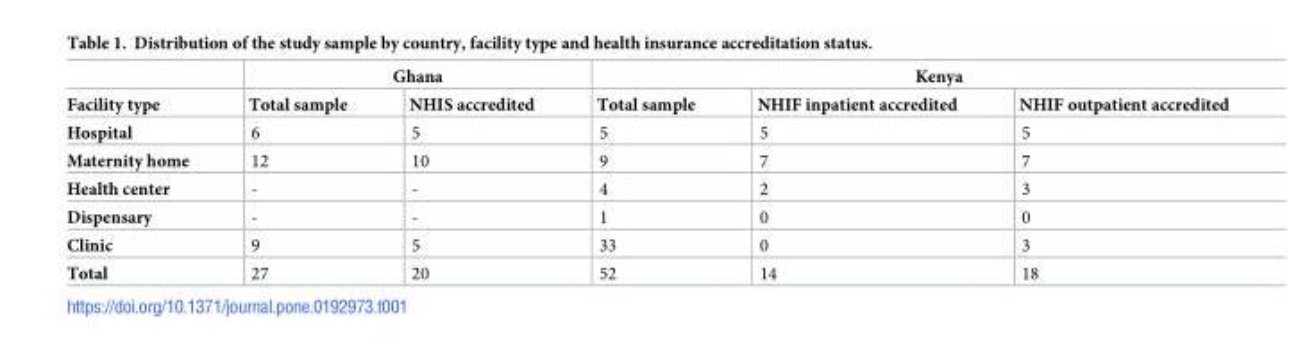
<table><thead><tr><td rowspan="2">Facility type</td><td colspan="2">Ghana</td><td colspan="3">Kenya</td></tr><tr><td>Total sample</td><td>NHIS accredited</td><td>Total sample</td><td>NHIF inpatient accredited</td><td>NHIF outpatient accredited</td></tr></thead><tbody><tr><td>Hospital</td><td>6</td><td>5</td><td>5</td><td>5</td><td>5</td></tr><tr><td>Maternity home</td><td>12</td><td>10</td><td>9</td><td>7</td><td>7</td></tr><tr><td>Health center</td><td>-</td><td>-</td><td>4</td><td>2</td><td>3</td></tr><tr><td>Dispensary</td><td>-</td><td>-</td><td>1</td><td>0</td><td>0</td></tr><tr><td>Clinic</td><td>9</td><td>5</td><td>33</td><td>0</td><td>3</td></tr><tr><td>Total</td><td>27</td><td>20</td><td>52</td><td>14</td><td>18</td></tr></tbody></table>